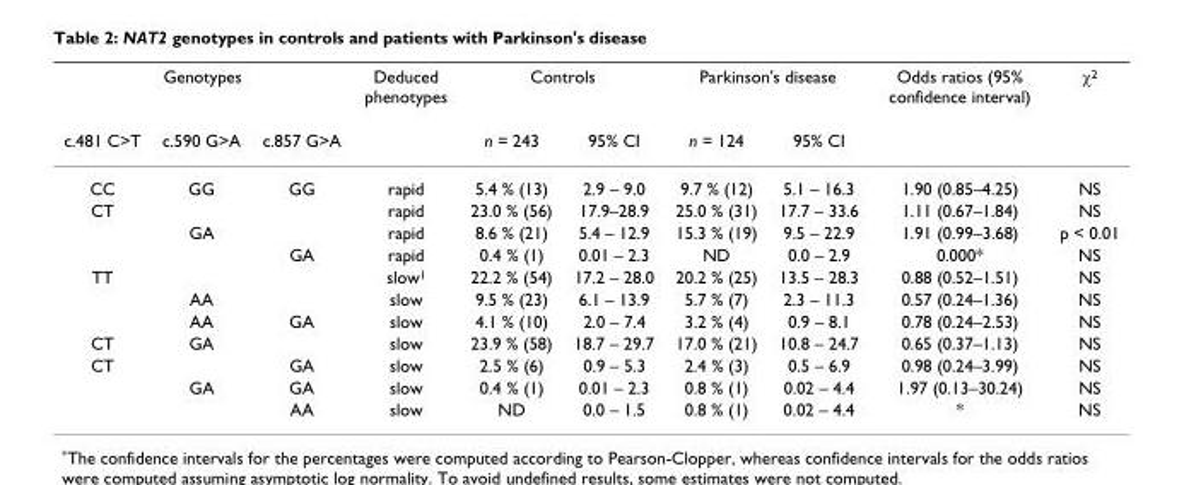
<table><thead><tr><td colspan="3">Genotypes</td><td rowspan="2">Deduced phenotypes</td><td colspan="2">Controls</td><td colspan="2">Parkinson&#x27;s disease</td><td rowspan="2">Odds ratios (95% confidence interval)</td><td rowspan="2">χ<sup>2</sup></td></tr><tr><td>c.481 C&gt;T</td><td>c.590 G&gt;A</td><td>c.857 G&gt;A</td><td>n = 243</td><td>95% CI</td><td>n = 124</td><td>95% CI</td></tr></thead><tbody><tr><td>CC</td><td>GG</td><td>GG</td><td>rapid</td><td>5.4 % (13)</td><td>2.9 – 9.0</td><td>9.7 % (12)</td><td>5.1 – 16.3</td><td>1.90 (0.85–4.25)</td><td>NS</td></tr><tr><td rowspan="3">CT</td><td></td><td></td><td>rapid</td><td>23.0 % (56)</td><td>17.9–28.9</td><td>25.0 % (31)</td><td>17.7 – 33.6</td><td>1.11 (0.67–1.84)</td><td>NS</td></tr><tr><td>GA</td><td></td><td>rapid</td><td>8.6 % (21)</td><td>5.4 – 12.9</td><td>15.3 % (19)</td><td>9.5 – 22.9</td><td>1.91 (0.99–3.68)</td><td>p &lt; 0.01</td></tr><tr><td></td><td>GA</td><td>rapid</td><td>0.4 % (1)</td><td>0.01 – 2.3</td><td>ND</td><td>0.0 – 2.9</td><td>0.000*</td><td>NS</td></tr><tr><td rowspan="3">TT</td><td></td><td></td><td>slow<sup>1</sup></td><td>22.2 % (54)</td><td>17.2 – 28.0</td><td>20.2 % (25)</td><td>13.5 – 28.3</td><td>0.88 (0.52–1.51)</td><td>NS</td></tr><tr><td>AA</td><td></td><td>slow</td><td>9.5 % (23)</td><td>6.1 – 13.9</td><td>5.7 % (7)</td><td>2.3 – 11.3</td><td>0.57 (0.24–1.36)</td><td>NS</td></tr><tr><td>AA</td><td>GA</td><td>slow</td><td>4.1 % (10)</td><td>2.0 – 7.4</td><td>3.2 % (4)</td><td>0.9 – 8.1</td><td>0.78 (0.24–2.53)</td><td>NS</td></tr><tr><td>CT</td><td>GA</td><td></td><td>slow</td><td>23.9 % (58)</td><td>18.7 – 29.7</td><td>17.0 % (21)</td><td>10.8 – 24.7</td><td>0.65 (0.37–1.13)</td><td>NS</td></tr><tr><td rowspan="3">CT</td><td></td><td>GA</td><td>slow</td><td>2.5 % (6)</td><td>0.9 – 5.3</td><td>2.4 % (3)</td><td>0.5 – 6.9</td><td>0.98 (0.24–3.99)</td><td>NS</td></tr><tr><td>GA</td><td>GA</td><td>slow</td><td>0.4 % (1)</td><td>0.01 – 2.3</td><td>0.8 % (1)</td><td>0.02 – 4.4</td><td>1.97 (0.13–30.24)</td><td>NS</td></tr><tr><td></td><td>AA</td><td>slow</td><td>ND</td><td>0.0 – 1.5</td><td>0.8 % (1)</td><td>0.02 – 4.4</td><td>*</td><td>NS</td></tr></tbody></table>